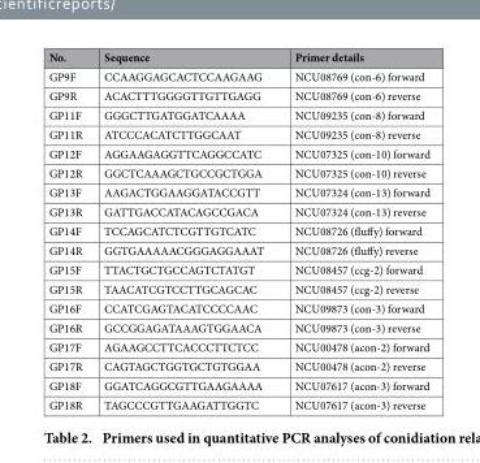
<table><thead><tr><td>No.</td><td>Sequence</td><td>Primer details</td></tr></thead><tbody><tr><td>GP9F</td><td>CCAAGGAGCACTCCAAGAAG</td><td>NCU08769 (con-6) forward</td></tr><tr><td>GP9R</td><td>ACACTTTGGGGTTGTTGAGG</td><td>NCU08769 (con-6) reverse</td></tr><tr><td>GP11F</td><td>GGGCTTGATGGATCAAAA</td><td>NCU09235 (con-8) forward</td></tr><tr><td>GP11R</td><td>ATCCCACATCTTGGCAAT</td><td>NCU09235 (con-8) reverse</td></tr><tr><td>GP12F</td><td>AGGAAGAGGTTCAGGCCATC</td><td>NCU07325 (con-10) forward</td></tr><tr><td>GP12R</td><td>GGCTCAAAGCTGCCGCTGGA</td><td>NCU07325 (con-10) reverse</td></tr><tr><td>GP13F</td><td>AAGACTGGAAGGATACCGTT</td><td>NCU07324 (con-13) forward</td></tr><tr><td>GP13R</td><td>GATTGACCATACAGCCGACA</td><td>NCU07324 (con-13) reverse</td></tr><tr><td>GP14F</td><td>TCCAGCATCTCGTTGTCATC</td><td>NCU08726 (fluffy) forward</td></tr><tr><td>GP14R</td><td>GGTGAAAAACGGGAGGAAAT</td><td>NCU08726 (fluffy) reverse</td></tr><tr><td>GP15F</td><td>TTACTGCTGCCAGTCTATGT</td><td>NCU08457 (ccg-2) forward</td></tr><tr><td>GP15R</td><td>TAACATCGTCCTTGCAGCAC</td><td>NCU08457 (ccg-2) reverse</td></tr><tr><td>GP16F</td><td>CCATCGAGTACATCCCCAAC</td><td>NCU09873 (con-3) forward</td></tr><tr><td>GP16R</td><td>GCCGGAGATAAAGTGGAACA</td><td>NCU09873 (con-3) reverse</td></tr><tr><td>GP17F</td><td>AGAAGCCTTCACCCTTCTCC</td><td>NCU00478 (acon-2) forward</td></tr><tr><td>GP17R</td><td>CAGTAGCTGGTGCTGTGGAA</td><td>NCU00478 (acon-2) reverse</td></tr><tr><td>GP18F</td><td>GGATCAGGCGTTGAAGAAAA</td><td>NCU07617 (acon-3) forward</td></tr><tr><td>GP18R</td><td>TAGCCCGTTGAAGATTGGTC</td><td>NCU07617 (acon-3) reverse</td></tr></tbody></table>